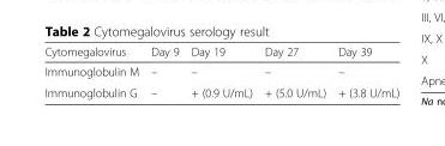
<table><thead><tr><td>Cytomegalovirus</td><td>Day 9</td><td>Day 19</td><td>Day 27</td><td>Day 39</td></tr></thead><tbody><tr><td>Immunoglobulin M</td><td>–</td><td>–</td><td>–</td><td>–</td></tr><tr><td>Immunoglobulin G</td><td>–</td><td>+ (0.9 U/mL)</td><td>+ (5.0 U/mL)</td><td>+ (3.8 U/mL)</td></tr></tbody></table>